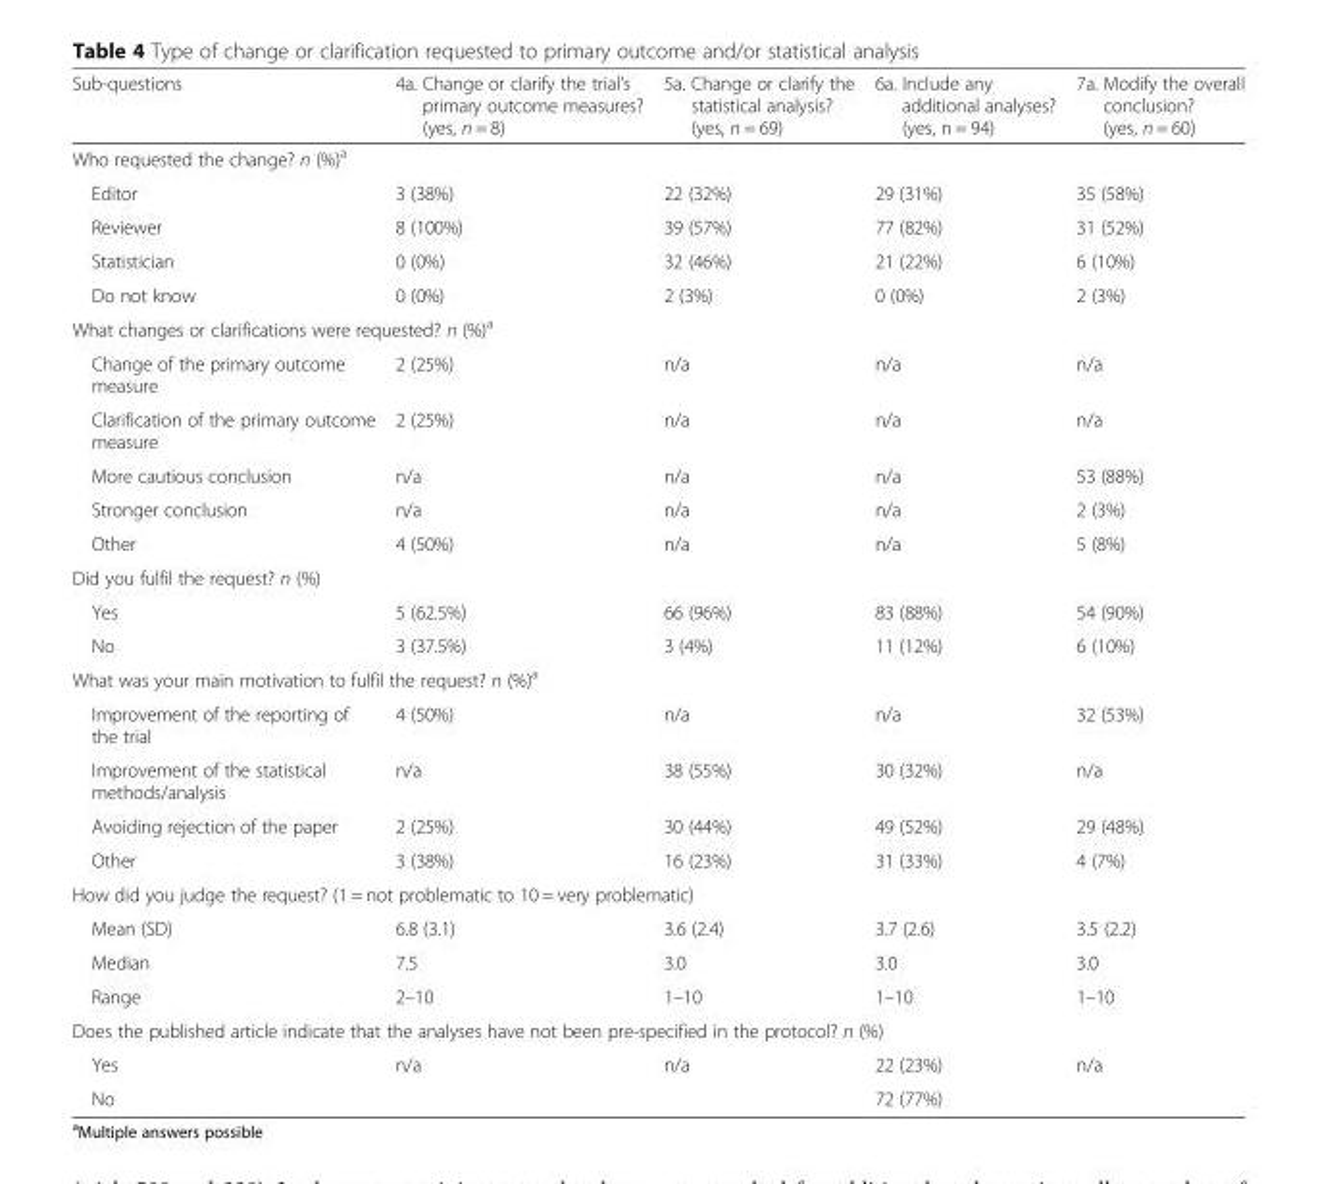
<table><thead><tr><td>Sub-questions</td><td>4a. Change or clarify the trial’s primary outcome measures? (yes, n = 8)</td><td>5a. Change or clarify the statistical analysis? (yes, n = 69)</td><td>6a. Include any additional analyses? (yes, n = 94)</td><td>7a. Modify the overall conclusion? (yes, n = 60)</td></tr></thead><tbody><tr><td colspan="5">Who requested the change? n (%)<sup>a</sup></td></tr><tr><td>Editor</td><td>3 (38%)</td><td>22 (32%)</td><td>29 (31%)</td><td>35 (58%)</td></tr><tr><td>Reviewer</td><td>8 (100%)</td><td>39 (57%)</td><td>77 (82%)</td><td>31 (52%)</td></tr><tr><td>Statistician</td><td>0 (0%)</td><td>32 (46%)</td><td>21 (22%)</td><td>6 (10%)</td></tr><tr><td>Do not know</td><td>0 (0%)</td><td>2 (3%)</td><td>0 (0%)</td><td>2 (3%)</td></tr><tr><td colspan="5">What changes or clarifications were requested? n (%)<sup>a</sup></td></tr><tr><td>Change of the primary outcome measure</td><td>2 (25%)</td><td>n/a</td><td>n/a</td><td>n/a</td></tr><tr><td>Clarification of the primary outcome measure</td><td>2 (25%)</td><td>n/a</td><td>n/a</td><td>n/a</td></tr><tr><td>More cautious conclusion</td><td>n/a</td><td>n/a</td><td>n/a</td><td>53 (88%)</td></tr><tr><td>Stronger conclusion</td><td>n/a</td><td>n/a</td><td>n/a</td><td>2 (3%)</td></tr><tr><td>Other</td><td>4 (50%)</td><td>n/a</td><td>n/a</td><td>5 (8%)</td></tr><tr><td colspan="5">Did you fulfil the request? n (%)</td></tr><tr><td>Yes</td><td>5 (62.5%)</td><td>66 (96%)</td><td>83 (88%)</td><td>54 (90%)</td></tr><tr><td>No</td><td>3 (37.5%)</td><td>3 (4%)</td><td>11 (12%)</td><td>6 (10%)</td></tr><tr><td colspan="5">What was your main motivation to fulfil the request? n (%)<sup>a</sup></td></tr><tr><td>Improvement of the reporting of the trial</td><td>4 (50%)</td><td>n/a</td><td>n/a</td><td>32 (53%)</td></tr><tr><td>Improvement of the statistical methods/analysis</td><td>n/a</td><td>38 (55%)</td><td>30 (32%)</td><td>n/a</td></tr><tr><td>Avoiding rejection of the paper</td><td>2 (25%)</td><td>30 (44%)</td><td>49 (52%)</td><td>29 (48%)</td></tr><tr><td>Other</td><td>3 (38%)</td><td>16 (23%)</td><td>31 (33%)</td><td>4 (7%)</td></tr><tr><td colspan="5">How did you judge the request? (1 = not problematic to 10 = very problematic)</td></tr><tr><td>Mean (SD)</td><td>6.8 (3.1)</td><td>3.6 (2.4)</td><td>3.7 (2.6)</td><td>3.5 (2.2)</td></tr><tr><td>Median</td><td>7.5</td><td>3.0</td><td>3.0</td><td>3.0</td></tr><tr><td>Range</td><td>2–10</td><td>1–10</td><td>1–10</td><td>1–10</td></tr><tr><td colspan="5">Does the published article indicate that the analyses have not been pre-specified in the protocol? n (%)</td></tr><tr><td>Yes</td><td>n/a</td><td>n/a</td><td>22 (23%)</td><td>n/a</td></tr><tr><td>No</td><td></td><td></td><td>72 (77%)</td><td></td></tr></tbody></table>